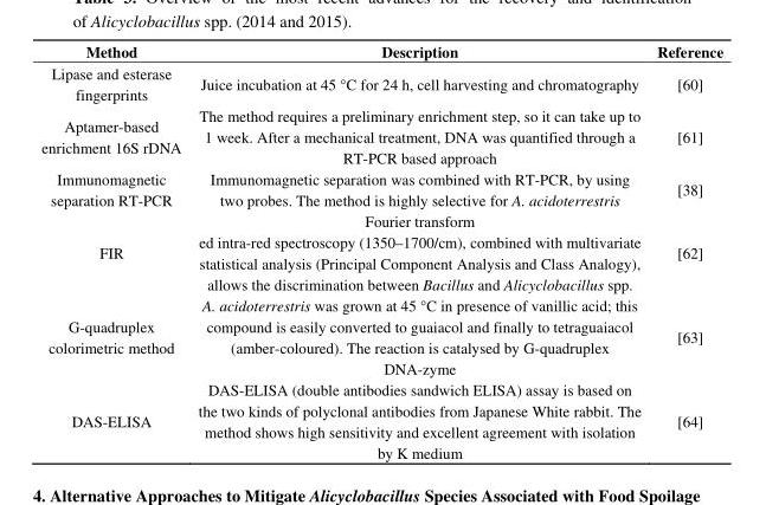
<table><thead><tr><td>Method</td><td>Description</td><td>Reference</td></tr></thead><tbody><tr><td>Lipase and esterase fingerprints</td><td>Juice incubation at 45 °C for 24 h, cell harvesting and chromatography</td><td>[60]</td></tr><tr><td>Aptamer-based enrichment 16S rDNA</td><td>The method requires a preliminary enrichment step, so it can take up to 1 week. After a mechanical treatment, DNA was quantified through a RT-PCR based approach</td><td>[61]</td></tr><tr><td>Immunomagnetic separation RT-PCR</td><td>Immunomagnetic separation was combined with RT-PCR, by using two probes. The method is highly selective for A. acidoterrestris</td><td>[38]</td></tr><tr><td>FIR</td><td>Fourier transform ed intra-red spectroscopy (1350–1700/cm), combined with multivariate statistical analysis (Principal Component Analysis and Class Analogy), allows the discrimination between Bacillus and Alicyclobacillus spp.</td><td>[62]</td></tr><tr><td>G-quadruplex colorimetric method</td><td>A. acidoterrestris was grown at 45 °C in presence of vanillic acid; this compound is easily converted to guaiacol and finally to tetraguaiacol (amber-coloured). The reaction is catalysed by G-quadruplex DNA-zyme</td><td>[63]</td></tr><tr><td>DAS-ELISA</td><td>DAS-ELISA (double antibodies sandwich ELISA) assay is based on the two kinds of polyclonal antibodies from Japanese White rabbit. The method shows high sensitivity and excellent agreement with isolation by K medium</td><td>[64]</td></tr></tbody></table>